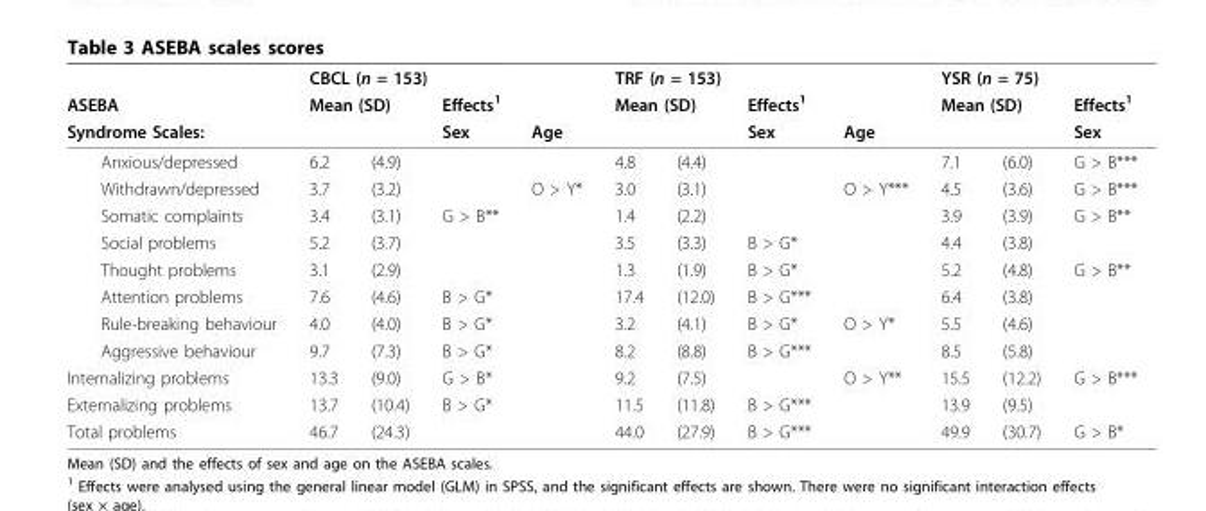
<table><thead><tr><td rowspan="3">ASEBA Syndrome Scales:</td><td colspan="4">CBCL (n = 153)</td><td colspan="4">TRF (n = 153)</td><td colspan="3">YSR (n = 75)</td></tr><tr><td colspan="2">Mean (SD)</td><td colspan="2">Effects<sup>1</sup></td><td colspan="2">Mean (SD)</td><td colspan="2">Effects<sup>1</sup></td><td colspan="2">Mean (SD)</td><td rowspan="2">Effects<sup>1</sup> Sex</td></tr><tr><td></td><td></td><td>Sex</td><td>Age</td><td></td><td></td><td>Sex</td><td>Age</td><td></td><td></td></tr></thead><tbody><tr><td>Anxious/depressed</td><td>6.2</td><td>(4.9)</td><td></td><td></td><td>4.8</td><td>(4.4)</td><td></td><td></td><td>7.1</td><td>(6.0)</td><td>G &gt; B***</td></tr><tr><td>Withdrawn/depressed</td><td>3.7</td><td>(3.2)</td><td></td><td>O &gt; Y*</td><td>3.0</td><td>(3.1)</td><td></td><td>O &gt; Y***</td><td>4.5</td><td>(3.6)</td><td>G &gt; B***</td></tr><tr><td>Somatic complaints</td><td>3.4</td><td>(3.1)</td><td>G &gt; B**</td><td></td><td>1.4</td><td>(2.2)</td><td></td><td></td><td>3.9</td><td>(3.9)</td><td>G &gt; B**</td></tr><tr><td>Social problems</td><td>5.2</td><td>(3.7)</td><td></td><td></td><td>3.5</td><td>(3.3)</td><td>B &gt; G*</td><td></td><td>4.4</td><td>(3.8)</td><td></td></tr><tr><td>Thought problems</td><td>3.1</td><td>(2.9)</td><td></td><td></td><td>1.3</td><td>(1.9)</td><td>B &gt; G*</td><td></td><td>5.2</td><td>(4.8)</td><td>G &gt; B**</td></tr><tr><td>Attention problems</td><td>7.6</td><td>(4.6)</td><td>B &gt; G*</td><td></td><td>17.4</td><td>(12.0)</td><td>B &gt; G***</td><td></td><td>6.4</td><td>(3.8)</td><td></td></tr><tr><td>Rule-breaking behaviour</td><td>4.0</td><td>(4.0)</td><td>B &gt; G*</td><td></td><td>3.2</td><td>(4.1)</td><td>B &gt; G*</td><td>O &gt; Y*</td><td>5.5</td><td>(4.6)</td><td></td></tr><tr><td>Aggressive behaviour</td><td>9.7</td><td>(7.3)</td><td>B &gt; G*</td><td></td><td>8.2</td><td>(8.8)</td><td>B &gt; G***</td><td></td><td>8.5</td><td>(5.8)</td><td></td></tr><tr><td>Internalizing problems</td><td>13.3</td><td>(9.0)</td><td>G &gt; B*</td><td></td><td>9.2</td><td>(7.5)</td><td></td><td>O &gt; Y**</td><td>15.5</td><td>(12.2)</td><td>G &gt; B***</td></tr><tr><td>Externalizing problems</td><td>13.7</td><td>(10.4)</td><td>B &gt; G*</td><td></td><td>11.5</td><td>(11.8)</td><td>B &gt; G***</td><td></td><td>13.9</td><td>(9.5)</td><td></td></tr><tr><td>Total problems</td><td>46.7</td><td>(24.3)</td><td></td><td></td><td>44.0</td><td>(27.9)</td><td>B &gt; G***</td><td></td><td>49.9</td><td>(30.7)</td><td>G &gt; B*</td></tr></tbody></table>